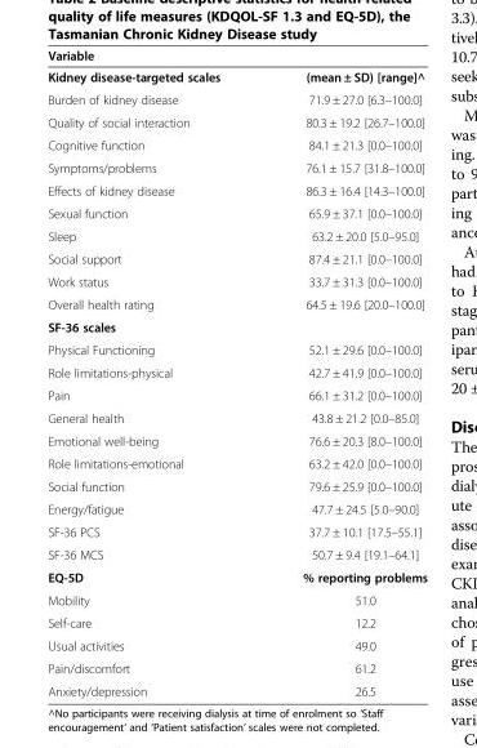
<table><thead><tr><td>Variable</td><td></td></tr></thead><tbody><tr><td>Kidney disease-targeted scales</td><td>(mean ± SD) [range]^</td></tr><tr><td>Burden of kidney disease</td><td>71.9 ± 27.0 [6.3–100.0]</td></tr><tr><td>Quality of social interaction</td><td>80.3 ± 19.2 [26.7–100.0]</td></tr><tr><td>Cognitive function</td><td>84.1 ± 21.3 [0.0–100.0]</td></tr><tr><td>Symptoms/problems</td><td>76.1 ± 15.7 [31.8–100.0]</td></tr><tr><td>Effects of kidney disease</td><td>86.3 ± 16.4 [14.3–100.0]</td></tr><tr><td>Sexual function</td><td>65.9 ± 37.1 [0.0–100.0]</td></tr><tr><td>Sleep</td><td>63.2 ± 20.0 [5.0–95.0]</td></tr><tr><td>Social support</td><td>87.4 ± 21.1 [0.0–100.0]</td></tr><tr><td>Work status</td><td>33.7 ± 31.3 [0.0–100.0]</td></tr><tr><td>Overall health rating</td><td>64.5 ± 19.6 [20.0–100.0]</td></tr><tr><td colspan="2">SF-36 scales</td></tr><tr><td>Physical Functioning</td><td>52.1 ± 29.6 [0.0–100.0]</td></tr><tr><td>Role limitations-physical</td><td>42.7 ± 41.9 [0.0–100.0]</td></tr><tr><td>Pain</td><td>66.1 ± 31.2 [0.0–100.0]</td></tr><tr><td>General health</td><td>43.8 ± 21.2 [0.0–85.0]</td></tr><tr><td>Emotional well-being</td><td>76.6 ± 20.3 [8.0–100.0]</td></tr><tr><td>Role limitations-emotional</td><td>63.2 ± 42.0 [0.0–100.0]</td></tr><tr><td>Social function</td><td>79.6 ± 25.9 [0.0–100.0]</td></tr><tr><td>Energy/fatigue</td><td>47.7 ± 24.5 [5.0–90.0]</td></tr><tr><td>SF-36 PCS</td><td>37.7 ± 10.1 [17.5–55.1]</td></tr><tr><td>SF-36 MCS</td><td>50.7 ± 9.4 [19.1–64.1]</td></tr><tr><td>EQ-5D</td><td>% reporting problems</td></tr><tr><td>Mobility</td><td>51.0</td></tr><tr><td>Self-care</td><td>12.2</td></tr><tr><td>Usual activities</td><td>49.0</td></tr><tr><td>Pain/discomfort</td><td>61.2</td></tr><tr><td>Anxiety/depression</td><td>26.5</td></tr></tbody></table>